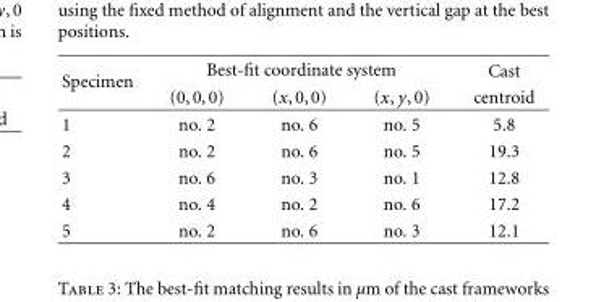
<table><thead><tr><td rowspan="2">Specimen</td><td colspan="3">Best-fit coordinate system</td><td rowspan="2">Cast centroid</td></tr><tr><td>(0,0,0)</td><td>(x,0,0)</td><td>(x, y,0)</td></tr></thead><tbody><tr><td>1</td><td>no. 2</td><td>no. 6</td><td>no. 5</td><td>5.8</td></tr><tr><td>2</td><td>no. 2</td><td>no. 6</td><td>no. 5</td><td>19.3</td></tr><tr><td>3</td><td>no. 6</td><td>no. 3</td><td>no. 1</td><td>12.8</td></tr><tr><td>4</td><td>no. 4</td><td>no. 2</td><td>no. 6</td><td>17.2</td></tr><tr><td>5</td><td>no. 2</td><td>no. 6</td><td>no. 3</td><td>12.1</td></tr></tbody></table>